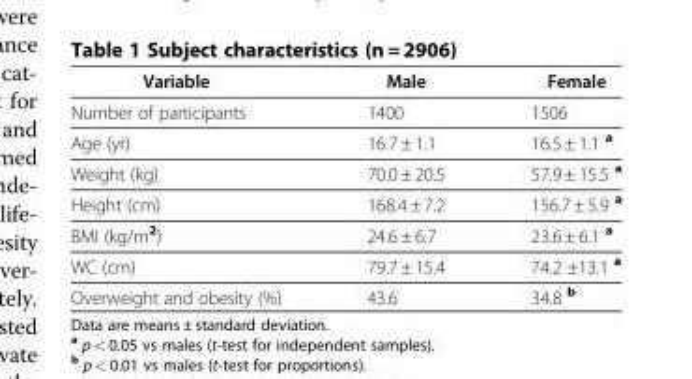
<table><thead><tr><td>Variable</td><td>Male</td><td>Female</td></tr></thead><tbody><tr><td>Number of participants</td><td>1400</td><td>1506</td></tr><tr><td>Age (yr)</td><td>16.7 ± 1.1</td><td>16.5 ± 1.1 <sup>a</sup></td></tr><tr><td>Weight (kg)</td><td>70.0 ± 20.5</td><td>57.9 ± 15.5 <sup>a</sup></td></tr><tr><td>Height (cm)</td><td>168.4 ± 7.2</td><td>156.7 ± 5.9 <sup>a</sup></td></tr><tr><td>BMI (kg/m<sup>2</sup>)</td><td>24.6 ± 6.7</td><td>23.6 ± 6.1 <sup>a</sup></td></tr><tr><td>WC (cm)</td><td>79.7 ± 15.4</td><td>74.2 ±13.1 <sup>a</sup></td></tr><tr><td>Overweight and obesity (%)</td><td>43.6</td><td>34.8 <sup>b</sup></td></tr></tbody></table>